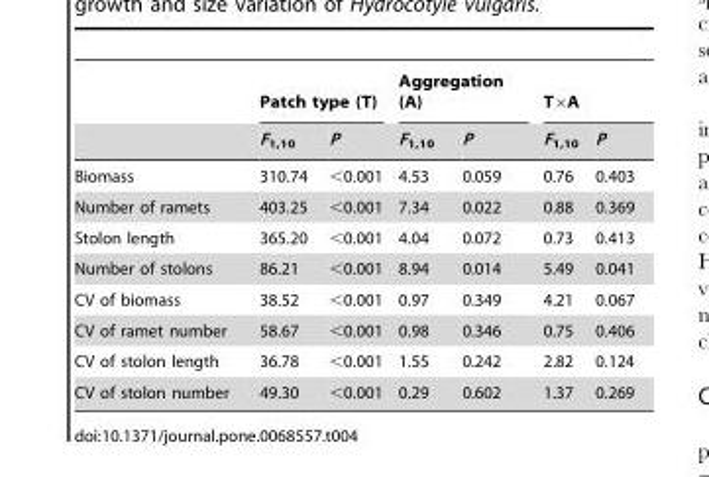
<table><thead><tr><td rowspan="2"></td><td colspan="2">Patch type (T)</td><td colspan="2">Aggregation (A)</td><td colspan="2">T×A</td></tr><tr><td>F<sub>1,10</sub></td><td>P</td><td>F<sub>1,10</sub></td><td>P</td><td>F<sub>1,10</sub></td><td>P</td></tr></thead><tbody><tr><td>Biomass</td><td>310.74</td><td>&lt;0.001</td><td>4.53</td><td>0.059</td><td>0.76</td><td>0.403</td></tr><tr><td>Number of ramets</td><td>403.25</td><td>&lt;0.001</td><td>7.34</td><td>0.022</td><td>0.88</td><td>0.369</td></tr><tr><td>Stolon length</td><td>365.20</td><td>&lt;0.001</td><td>4.04</td><td>0.072</td><td>0.73</td><td>0.413</td></tr><tr><td>Number of stolons</td><td>86.21</td><td>&lt;0.001</td><td>8.94</td><td>0.014</td><td>5.49</td><td>0.041</td></tr><tr><td>CV of biomass</td><td>38.52</td><td>&lt;0.001</td><td>0.97</td><td>0.349</td><td>4.21</td><td>0.067</td></tr><tr><td>CV of ramet number</td><td>58.67</td><td>&lt;0.001</td><td>0.98</td><td>0.346</td><td>0.75</td><td>0.406</td></tr><tr><td>CV of stolon length</td><td>36.78</td><td>&lt;0.001</td><td>1.55</td><td>0.242</td><td>2.82</td><td>0.124</td></tr><tr><td>CV of stolon number</td><td>49.30</td><td>&lt;0.001</td><td>0.29</td><td>0.602</td><td>1.37</td><td>0.269</td></tr></tbody></table>